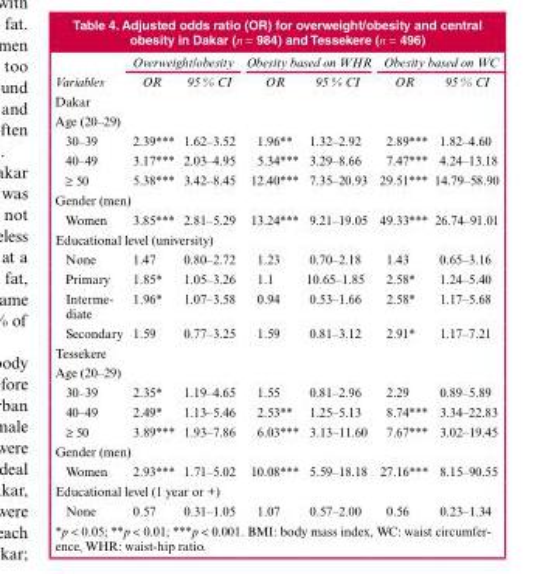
<table><thead><tr><td rowspan="2">Variables</td><td colspan="2">Overweight/obesity</td><td colspan="2">Obesity based on WHR</td><td colspan="2">Obesity based on WC</td></tr><tr><td>OR</td><td>95 % CI</td><td>OR</td><td>95 % CI</td><td>OR</td><td>95 % CI</td></tr></thead><tbody><tr><td colspan="7">Dakar</td></tr><tr><td colspan="7">Age (20–29)</td></tr><tr><td>30–39</td><td>2.39***</td><td>1.62–3.52</td><td>1.96**</td><td>1.32–2.92</td><td>2.89***</td><td>1.82–4.60</td></tr><tr><td>40–49</td><td>3.17***</td><td>2.03–4.95</td><td>5.34***</td><td>3.29–8.66</td><td>7.47***</td><td>4.24–13.18</td></tr><tr><td>≥ 50</td><td>5.38***</td><td>3.42–8.45</td><td>12.40***</td><td>7.35–20.93</td><td>29.51***</td><td>14.79–58.90</td></tr><tr><td colspan="7">Gender (men)</td></tr><tr><td>Women</td><td>3.85***</td><td>2.81–5.29</td><td>13.24***</td><td>9.21–19.05</td><td>49.33***</td><td>26.74–91.01</td></tr><tr><td colspan="7">Educational level (university)</td></tr><tr><td>None</td><td>1.47</td><td>0.80–2.72</td><td>1.23</td><td>0.70–2.18</td><td>1.43</td><td>0.65–3.16</td></tr><tr><td>Primary</td><td>1.85*</td><td>1.05–3.26</td><td>1.1</td><td>10.65–1.85</td><td>2.58*</td><td>1.24–5.40</td></tr><tr><td>Interme- diate</td><td>1.96*</td><td>1.07–3.58</td><td>0.94</td><td>0.53–1.66</td><td>2.58*</td><td>1.17–5.68</td></tr><tr><td>Secondary</td><td>1.59</td><td>0.77–3.25</td><td>1.59</td><td>0.81–3.12</td><td>2.91*</td><td>1.17–7.21</td></tr><tr><td colspan="7">Tessekere</td></tr><tr><td colspan="7">Age (20–29)</td></tr><tr><td>30–39</td><td>2.35*</td><td>1.19–4.65</td><td>1.55</td><td>0.81–2.96</td><td>2.29</td><td>0.89–5.89</td></tr><tr><td>40–49</td><td>2.49*</td><td>1.13–5.46</td><td>2.53**</td><td>1.25–5.13</td><td>8.74***</td><td>3.34–22.83</td></tr><tr><td>≥ 50</td><td>3.89***</td><td>1.93–7.86</td><td>6.03***</td><td>3.13–11.60</td><td>7.67***</td><td>3.02–19.45</td></tr><tr><td colspan="7">Gender (men)</td></tr><tr><td>Women</td><td>2.93***</td><td>1.71–5.02</td><td>10.08***</td><td>5.59–18.18</td><td>27.16***</td><td>8.15–90.55</td></tr><tr><td colspan="7">Educational level (1 year or +)</td></tr><tr><td>None</td><td>0.57</td><td>0.31–1.05</td><td>1.07</td><td>0.57–2.00</td><td>0.56</td><td>0.23–1.34</td></tr></tbody></table>